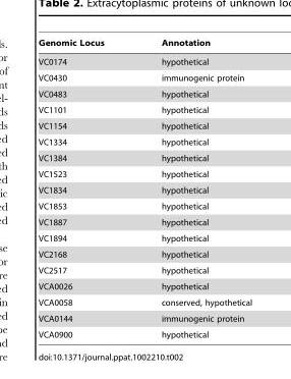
<table><thead><tr><td>Genomic Locus</td><td>Annotation</td></tr></thead><tbody><tr><td>VC0174</td><td>hypothetical</td></tr><tr><td>VC0430</td><td>immunogenic protein</td></tr><tr><td>VC0483</td><td>hypothetical</td></tr><tr><td>VC1101</td><td>hypothetical</td></tr><tr><td>VC1154</td><td>hypothetical</td></tr><tr><td>VC1334</td><td>hypothetical</td></tr><tr><td>VC1384</td><td>hypothetical</td></tr><tr><td>VC1523</td><td>hypothetical</td></tr><tr><td>VC1834</td><td>hypothetical</td></tr><tr><td>VC1853</td><td>hypothetical</td></tr><tr><td>VC1887</td><td>hypothetical</td></tr><tr><td>VC1894</td><td>hypothetical</td></tr><tr><td>VC2168</td><td>hypothetical</td></tr><tr><td>VC2517</td><td>hypothetical</td></tr><tr><td>VCA0026</td><td>hypothetical</td></tr><tr><td>VCA0058</td><td>conserved, hypothetical</td></tr><tr><td>VCA0144</td><td>immunogenic protein</td></tr><tr><td>VCA0900</td><td>hypothetical</td></tr></tbody></table>